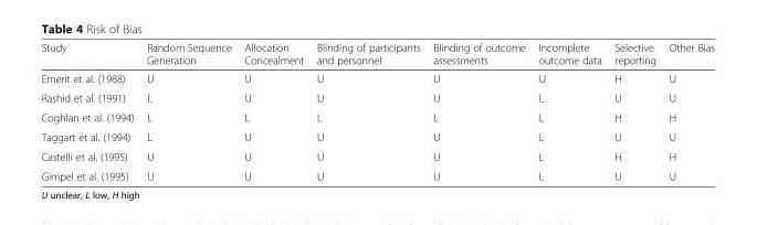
<table><thead><tr><td>Study</td><td>Random Sequence Generation</td><td>Allocation Concealment</td><td>Blinding of participants and personnel</td><td>Blinding of outcome assessments</td><td>Incomplete outcome data</td><td>Selective reporting</td><td>Other Bias</td></tr></thead><tbody><tr><td>Emerit et al. (1988)</td><td>U</td><td>U</td><td>U</td><td>U</td><td>U</td><td>H</td><td>U</td></tr><tr><td>Rashid et al. (1991)</td><td>L</td><td>U</td><td>U</td><td>U</td><td>L</td><td>U</td><td>U</td></tr><tr><td>Coghlan et al. (1994)</td><td>L</td><td>L</td><td>L</td><td>L</td><td>L</td><td>H</td><td>H</td></tr><tr><td>Taggart et al. (1994)</td><td>L</td><td>U</td><td>U</td><td>U</td><td>L</td><td>U</td><td>U</td></tr><tr><td>Castelli et al. (1995)</td><td>U</td><td>U</td><td>U</td><td>U</td><td>L</td><td>H</td><td>H</td></tr><tr><td>Gimpel et al. (1995)</td><td>U</td><td>U</td><td>U</td><td>U</td><td>L</td><td>U</td><td>U</td></tr></tbody></table>